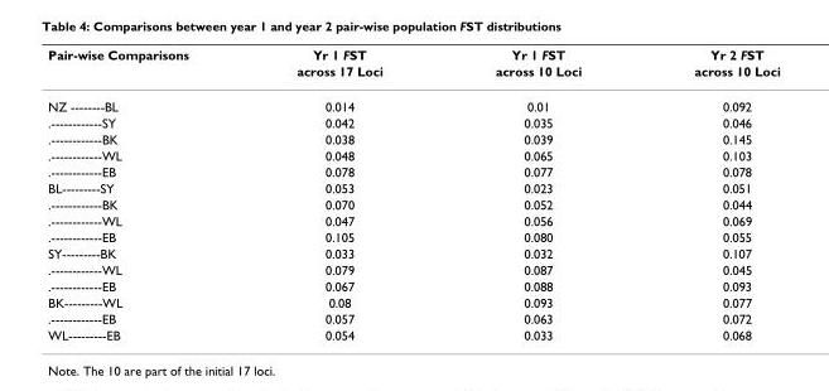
<table><thead><tr><td rowspan="2">Pair-wise Comparisons</td><td rowspan="2">Yr 1 FST across 17 Loci</td><td rowspan="2">Yr 1 FST across 10 Loci</td><td rowspan="2">Yr 2 FST across 10 Loci</td></tr><tr></tr></thead><tbody><tr><td>NZ --------BL</td><td>0.014</td><td>0.01</td><td>0.092</td></tr><tr><td>.------------SY</td><td>0.042</td><td>0.035</td><td>0.046</td></tr><tr><td>.------------BK</td><td>0.038</td><td>0.039</td><td>0.145</td></tr><tr><td>.------------WL</td><td>0.048</td><td>0.065</td><td>0.103</td></tr><tr><td>.------------EB</td><td>0.078</td><td>0.077</td><td>0.078</td></tr><tr><td>BL---------SY</td><td>0.053</td><td>0.023</td><td>0.051</td></tr><tr><td>.------------BK</td><td>0.070</td><td>0.052</td><td>0.044</td></tr><tr><td>.------------WL</td><td>0.047</td><td>0.056</td><td>0.069</td></tr><tr><td>.------------EB</td><td>0.105</td><td>0.080</td><td>0.055</td></tr><tr><td>SY---------BK</td><td>0.033</td><td>0.032</td><td>0.107</td></tr><tr><td>.------------WL</td><td>0.079</td><td>0.087</td><td>0.045</td></tr><tr><td>.------------EB</td><td>0.067</td><td>0.088</td><td>0.093</td></tr><tr><td>BK---------WL</td><td>0.08</td><td>0.093</td><td>0.077</td></tr><tr><td>.------------EB</td><td>0.057</td><td>0.063</td><td>0.072</td></tr><tr><td>WL---------EB</td><td>0.054</td><td>0.033</td><td>0.068</td></tr></tbody></table>